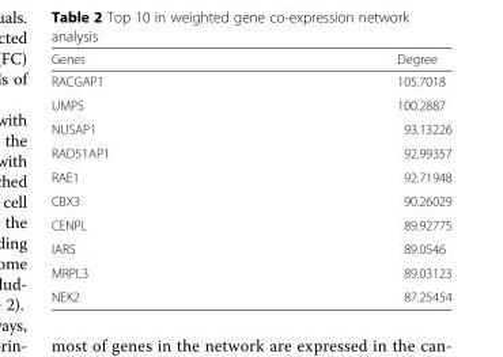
<table><thead><tr><td>Genes</td><td>Degree</td></tr></thead><tbody><tr><td>RACGAP1</td><td>105.7018</td></tr><tr><td>UMPS</td><td>100.2887</td></tr><tr><td>NUSAP1</td><td>93.13226</td></tr><tr><td>RAD51AP1</td><td>92.99357</td></tr><tr><td>RAE1</td><td>92.71948</td></tr><tr><td>CBX3</td><td>90.26029</td></tr><tr><td>CENPL</td><td>89.92775</td></tr><tr><td>IARS</td><td>89.0546</td></tr><tr><td>MRPL3</td><td>89.03123</td></tr><tr><td>NEK2</td><td>87.25454</td></tr></tbody></table>